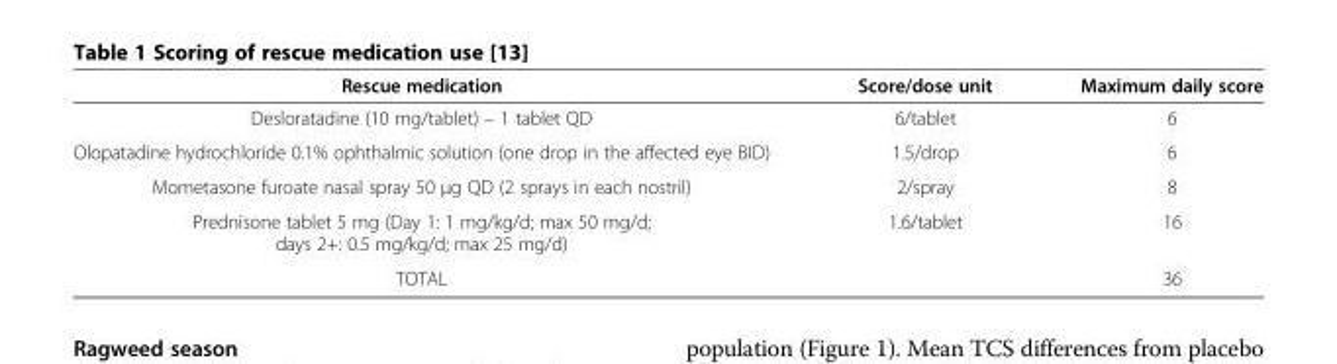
<table><thead><tr><td>Rescue medication</td><td>Score/dose unit</td><td>Maximum daily score</td></tr></thead><tbody><tr><td>Desloratadine (10 mg/tablet) – 1 tablet QD</td><td>6/tablet</td><td>6</td></tr><tr><td>Olopatadine hydrochloride 0.1% ophthalmic solution (one drop in the affected eye BID)</td><td>1.5/drop</td><td>6</td></tr><tr><td>Mometasone furoate nasal spray 50 μg QD (2 sprays in each nostril)</td><td>2/spray</td><td>8</td></tr><tr><td>Prednisone tablet 5 mg (Day 1: 1 mg/kg/d; max 50 mg/d; days 2+: 0.5 mg/kg/d; max 25 mg/d)</td><td>1.6/tablet</td><td>16</td></tr><tr><td>TOTAL</td><td></td><td>36</td></tr></tbody></table>